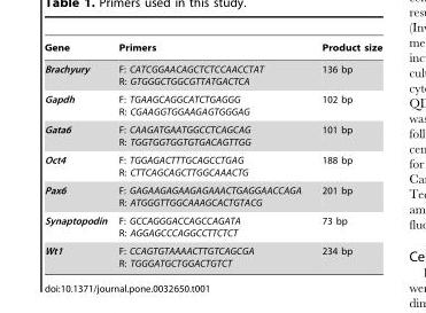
<table><thead><tr><td>Gene</td><td>Primers</td><td>Product size</td></tr></thead><tbody><tr><td>Brachyury</td><td>F: CATCGGAACAGCTCTCCAACCTAT R: GTGGGCTGGCGTTATGACTCA</td><td>136 bp</td></tr><tr><td>Gapdh</td><td>F: TGAAGCAGGCATCTGAGGG R: CGAAGGTGGAAGAGTGGGAG</td><td>102 bp</td></tr><tr><td>Gata6</td><td>F: CAAGATGAATGGCCTCAGCAG R: TGGTGGTGGTGTGACAGTTGG</td><td>101 bp</td></tr><tr><td>Oct4</td><td>F: TGGAGACTTTGCAGCCTGAG R: CTTCAGCAGCTTGGCAAACTG</td><td>188 bp</td></tr><tr><td>Pax6</td><td>F: GAGAAGAGAAGAGAAACTGAGGAACCAGA R: ATGGGTTGGCAAAGCACTGTACG</td><td>201 bp</td></tr><tr><td>Synaptopodin</td><td>F: GCCAGGGACCAGCCAGATA R: AGGAGCCCAGGCCTTCTCT</td><td>73 bp</td></tr><tr><td>Wt1</td><td>F: CCAGTGTAAAACTTGTCAGCGA R: TGGGATGCTGGACTGTCT</td><td>234 bp</td></tr></tbody></table>